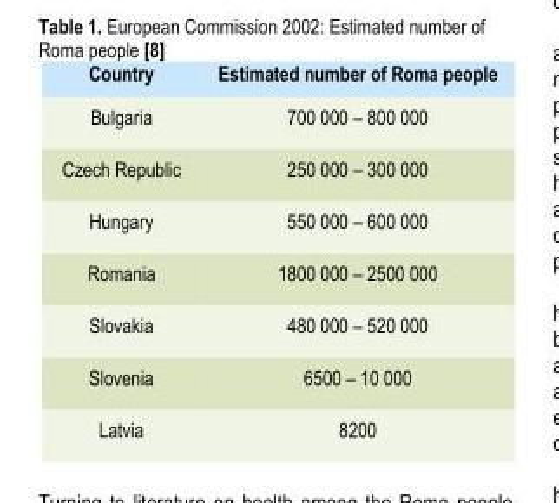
<table><thead><tr><td rowspan="8">Country Bulgaria Czech Republic Hungary Romania Slovakia Slovenia Latvia</td><td rowspan="8">Estimated number of Roma people 700 000 – 800 000 250 000 – 300 000 550 000 – 600 000 1800 000 – 2500 000 480 000 – 520 000 6500 – 10 000 8200</td></tr><tr></tr><tr></tr><tr></tr><tr></tr><tr></tr><tr></tr><tr></tr></thead><tbody></tbody></table>